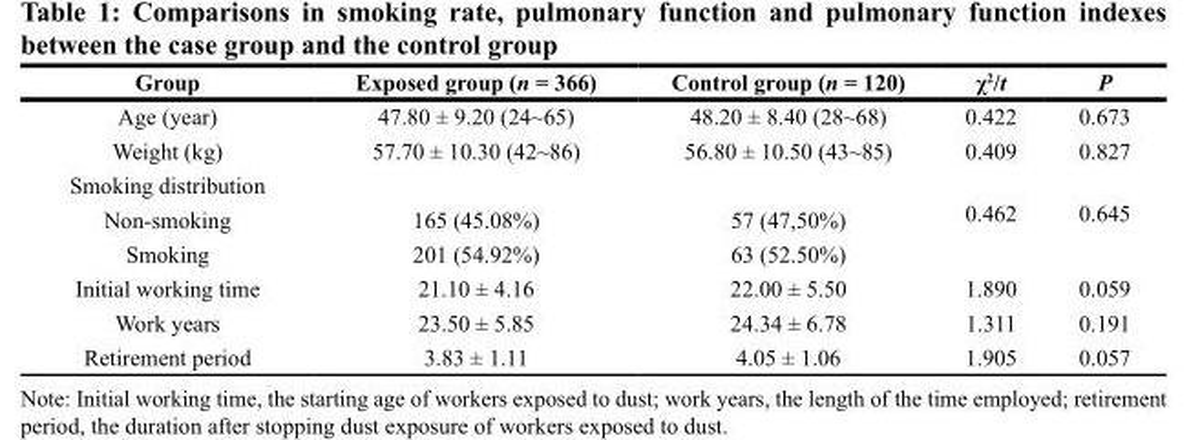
<table><thead><tr><td>Group</td><td>Exposed group (n = 366)</td><td>Control group (n = 120)</td><td>χ<sup>2</sup>/t</td><td>P</td></tr></thead><tbody><tr><td>Age (year)</td><td>47.80 ± 9.20 (24~65)</td><td>48.20 ± 8.40 (28~68)</td><td>0.422</td><td>0.673</td></tr><tr><td>Weight (kg)</td><td>57.70 ± 10.30 (42~86)</td><td>56.80 ± 10.50 (43~85)</td><td>0.409</td><td>0.827</td></tr><tr><td colspan="3">Smoking distribution</td><td rowspan="3">0.462</td><td rowspan="3">0.645</td></tr><tr><td>Non-smoking</td><td>165 (45.08%)</td><td>57 (47,50%)</td></tr><tr><td>Smoking</td><td>201 (54.92%)</td><td>63 (52.50%)</td></tr><tr><td>Initial working time</td><td>21.10 ± 4.16</td><td>22.00 ± 5.50</td><td>1.890</td><td>0.059</td></tr><tr><td>Work years</td><td>23.50 ± 5.85</td><td>24.34 ± 6.78</td><td>1.311</td><td>0.191</td></tr><tr><td>Retirement period</td><td>3.83 ± 1.11</td><td>4.05 ± 1.06</td><td>1.905</td><td>0.057</td></tr></tbody></table>